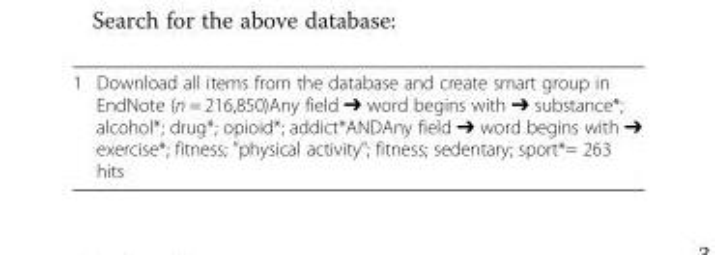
<table><tbody><tr><td>1</td><td>Download all items from the database and create smart group in EndNote (n = 216,850)Any field ➔ word begins with ➔ substance*; alcohol*; drug*; opioid*; addict*ANDAny field ➔ word begins with ➔ exercise*; fitness; &quot;physical activity&quot;; fitness; sedentary; sport*= 263 hits</td></tr></tbody></table>